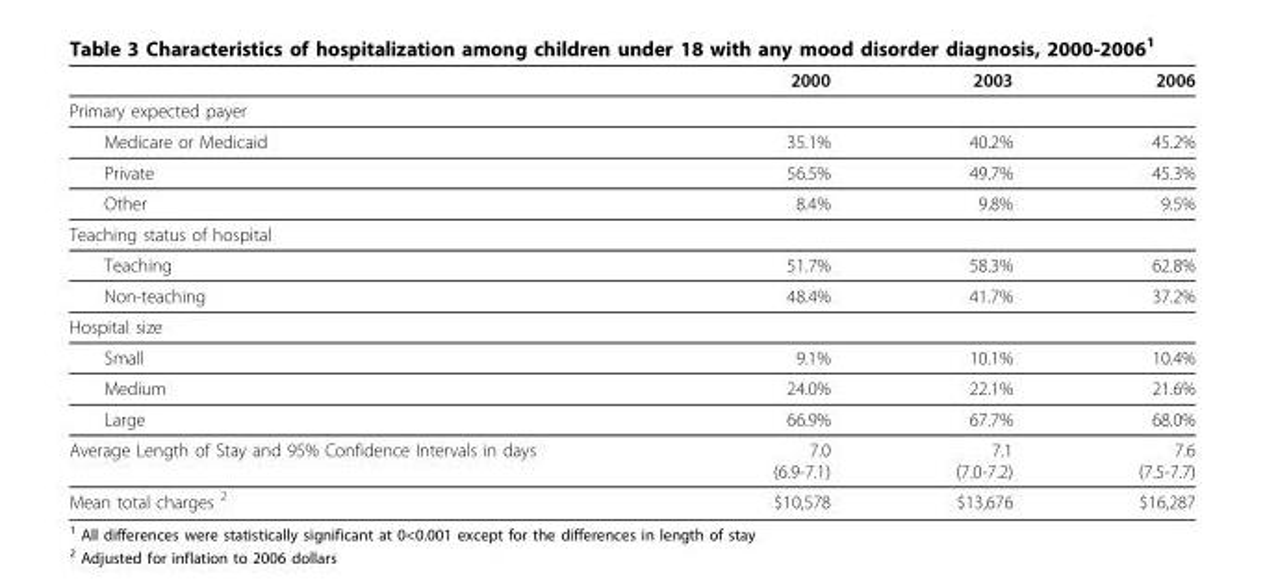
<table><thead><tr><td></td><td>2000</td><td>2003</td><td>2006</td></tr></thead><tbody><tr><td colspan="4">Primary expected payer</td></tr><tr><td>Medicare or Medicaid</td><td>35.1%</td><td>40.2%</td><td>45.2%</td></tr><tr><td>Private</td><td>56.5%</td><td>49.7%</td><td>45.3%</td></tr><tr><td>Other</td><td>8.4%</td><td>9.8%</td><td>9.5%</td></tr><tr><td colspan="4">Teaching status of hospital</td></tr><tr><td>Teaching</td><td>51.7%</td><td>58.3%</td><td>62.8%</td></tr><tr><td>Non-teaching</td><td>48.4%</td><td>41.7%</td><td>37.2%</td></tr><tr><td colspan="4">Hospital size</td></tr><tr><td>Small</td><td>9.1%</td><td>10.1%</td><td>10.4%</td></tr><tr><td>Medium</td><td>24.0%</td><td>22.1%</td><td>21.6%</td></tr><tr><td>Large</td><td>66.9%</td><td>67.7%</td><td>68.0%</td></tr><tr><td>Average Length of Stay and 95% Confidence Intervals in days</td><td>7.0 (6.9-7.1)</td><td>7.1 (7.0-7.2)</td><td>7.6 (7.5-7.7)</td></tr><tr><td>Mean total charges <sup>2</sup></td><td>$10,578</td><td>$13,676</td><td>$16,287</td></tr></tbody></table>